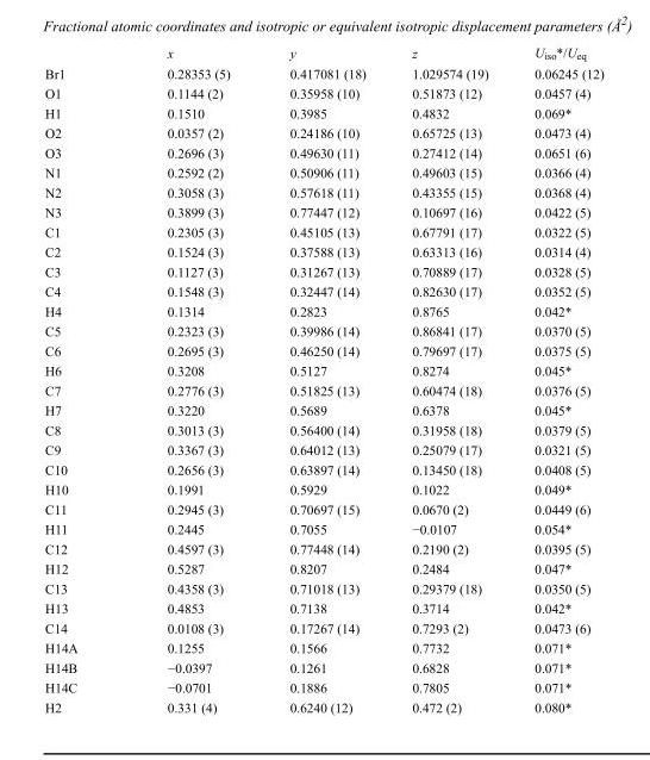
<table><thead><tr><td></td><td>x</td><td>y</td><td>z</td><td>U<sub>iso</sub>*/U<sub>eq</sub></td></tr></thead><tbody><tr><td>Br1</td><td>0.28353 (5)</td><td>0.417081 (18)</td><td>1.029574 (19)</td><td>0.06245 (12)</td></tr><tr><td>O1</td><td>0.1144 (2)</td><td>0.35958 (10)</td><td>0.51873 (12)</td><td>0.0457 (4)</td></tr><tr><td>H1</td><td>0.1510</td><td>0.3985</td><td>0.4832</td><td>0.069*</td></tr><tr><td>O2</td><td>0.0357 (2)</td><td>0.24186 (10)</td><td>0.65725 (13)</td><td>0.0473 (4)</td></tr><tr><td>O3</td><td>0.2696 (3)</td><td>0.49630 (11)</td><td>0.27412 (14)</td><td>0.0651 (6)</td></tr><tr><td>N1</td><td>0.2592 (2)</td><td>0.50906 (11)</td><td>0.49603 (15)</td><td>0.0366 (4)</td></tr><tr><td>N2</td><td>0.3058 (3)</td><td>0.57618 (11)</td><td>0.43355 (15)</td><td>0.0368 (4)</td></tr><tr><td>N3</td><td>0.3899 (3)</td><td>0.77447 (12)</td><td>0.10697 (16)</td><td>0.0422 (5)</td></tr><tr><td>C1</td><td>0.2305 (3)</td><td>0.45105 (13)</td><td>0.67791 (17)</td><td>0.0322 (5)</td></tr><tr><td>C2</td><td>0.1524 (3)</td><td>0.37588 (13)</td><td>0.63313 (16)</td><td>0.0314 (4)</td></tr><tr><td>C3</td><td>0.1127 (3)</td><td>0.31267 (13)</td><td>0.70889 (17)</td><td>0.0328 (5)</td></tr><tr><td>C4</td><td>0.1548 (3)</td><td>0.32447 (14)</td><td>0.82630 (17)</td><td>0.0352 (5)</td></tr><tr><td>H4</td><td>0.1314</td><td>0.2823</td><td>0.8765</td><td>0.042*</td></tr><tr><td>C5</td><td>0.2323 (3)</td><td>0.39986 (14)</td><td>0.86841 (17)</td><td>0.0370 (5)</td></tr><tr><td>C6</td><td>0.2695 (3)</td><td>0.46250 (14)</td><td>0.79697 (17)</td><td>0.0375 (5)</td></tr><tr><td>H6</td><td>0.3208</td><td>0.5127</td><td>0.8274</td><td>0.045*</td></tr><tr><td>C7</td><td>0.2776 (3)</td><td>0.51825 (13)</td><td>0.60474 (18)</td><td>0.0376 (5)</td></tr><tr><td>H7</td><td>0.3220</td><td>0.5689</td><td>0.6378</td><td>0.045*</td></tr><tr><td>C8</td><td>0.3013 (3)</td><td>0.56400 (14)</td><td>0.31958 (18)</td><td>0.0379 (5)</td></tr><tr><td>C9</td><td>0.3367 (3)</td><td>0.64012 (13)</td><td>0.25079 (17)</td><td>0.0321 (5)</td></tr><tr><td>C10</td><td>0.2656 (3)</td><td>0.63897 (14)</td><td>0.13450 (18)</td><td>0.0408 (5)</td></tr><tr><td>H10</td><td>0.1991</td><td>0.5929</td><td>0.1022</td><td>0.049*</td></tr><tr><td>C11</td><td>0.2945 (3)</td><td>0.70697 (15)</td><td>0.0670 (2)</td><td>0.0449 (6)</td></tr><tr><td>H11</td><td>0.2445</td><td>0.7055</td><td>−0.0107</td><td>0.054*</td></tr><tr><td>C12</td><td>0.4597 (3)</td><td>0.77448 (14)</td><td>0.2190 (2)</td><td>0.0395 (5)</td></tr><tr><td>H12</td><td>0.5287</td><td>0.8207</td><td>0.2484</td><td>0.047*</td></tr><tr><td>C13</td><td>0.4358 (3)</td><td>0.71018 (13)</td><td>0.29379 (18)</td><td>0.0350 (5)</td></tr><tr><td>H13</td><td>0.4853</td><td>0.7138</td><td>0.3714</td><td>0.042*</td></tr><tr><td>C14</td><td>0.0108 (3)</td><td>0.17267 (14)</td><td>0.7293 (2)</td><td>0.0473 (6)</td></tr><tr><td>H14A</td><td>0.1255</td><td>0.1566</td><td>0.7732</td><td>0.071*</td></tr><tr><td>H14B</td><td>−0.0397</td><td>0.1261</td><td>0.6828</td><td>0.071*</td></tr><tr><td>H14C</td><td>−0.0701</td><td>0.1886</td><td>0.7805</td><td>0.071*</td></tr><tr><td>H2</td><td>0.331 (4)</td><td>0.6240 (12)</td><td>0.472 (2)</td><td>0.080*</td></tr></tbody></table>